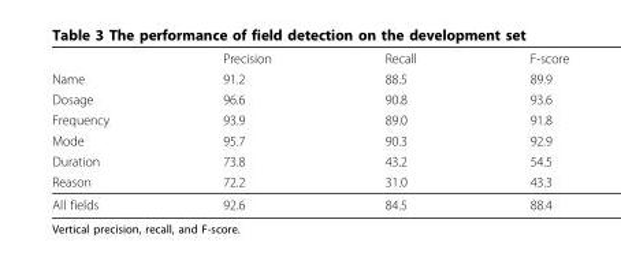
<table><thead><tr><td rowspan="7">Name Dosage Frequency Mode Duration Reason</td><td rowspan="7">Precision 91.2 96.6 93.9 95.7 73.8 72.2</td><td rowspan="7">Recall 88.5 90.8 89.0 90.3 43.2 31.0</td><td rowspan="7">F-score 89.9 93.6 91.8 92.9 54.5 43.3</td></tr><tr></tr><tr></tr><tr></tr><tr></tr><tr></tr><tr></tr></thead><tbody><tr><td>All fields</td><td>92.6</td><td>84.5</td><td>88.4</td></tr></tbody></table>